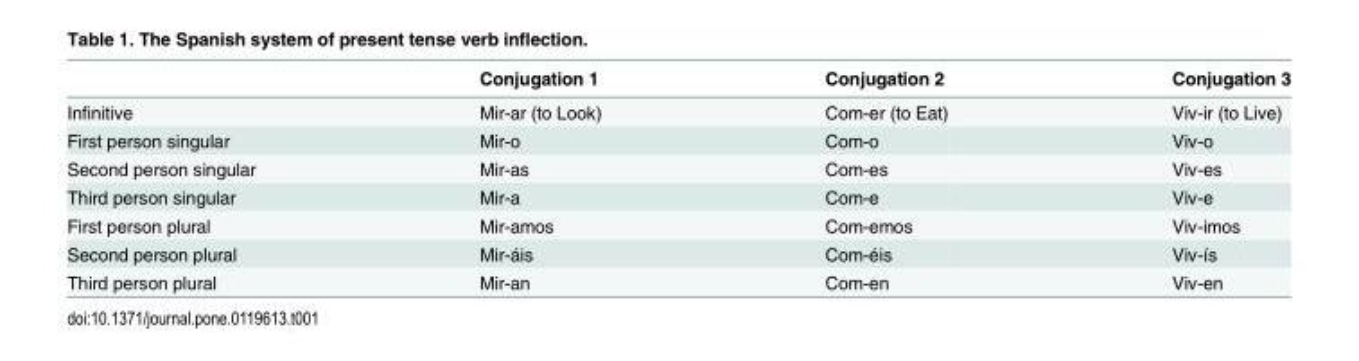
<table><thead><tr><td></td><td>Conjugation 1</td><td>Conjugation 2</td><td>Conjugation 3</td></tr></thead><tbody><tr><td>Infinitive</td><td>Mir-ar (to Look)</td><td>Com-er (to Eat)</td><td>Viv-ir (to Live)</td></tr><tr><td>First person singular</td><td>Mir-o</td><td>Com-o</td><td>Viv-o</td></tr><tr><td>Second person singular</td><td>Mir-as</td><td>Com-es</td><td>Viv-es</td></tr><tr><td>Third person singular</td><td>Mir-a</td><td>Com-e</td><td>Viv-e</td></tr><tr><td>First person plural</td><td>Mir-amos</td><td>Com-emos</td><td>Viv-imos</td></tr><tr><td>Second person plural</td><td>Mir-áis</td><td>Com-éis</td><td>Viv-ís</td></tr><tr><td>Third person plural</td><td>Mir-an</td><td>Com-en</td><td>Viv-en</td></tr></tbody></table>